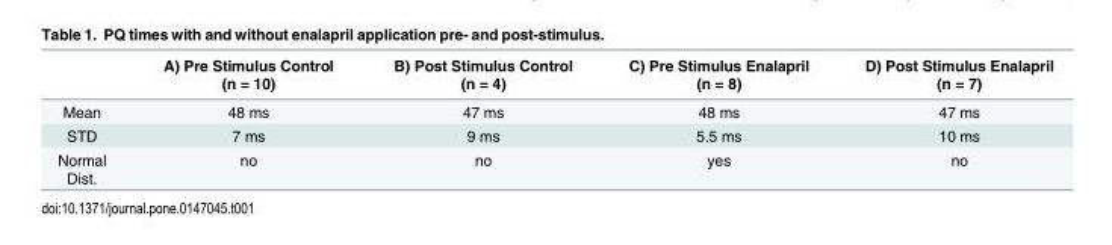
<table><thead><tr><td></td><td>A) Pre Stimulus Control (n = 10)</td><td>B) Post Stimulus Control (n = 4)</td><td>C) Pre Stimulus Enalapril (n = 8)</td><td>D) Post Stimulus Enalapril (n = 7)</td></tr></thead><tbody><tr><td>Mean</td><td>48 ms</td><td>47 ms</td><td>48 ms</td><td>47 ms</td></tr><tr><td>STD</td><td>7 ms</td><td>9 ms</td><td>5.5 ms</td><td>10 ms</td></tr><tr><td>Normal Dist.</td><td>no</td><td>no</td><td>yes</td><td>no</td></tr></tbody></table>